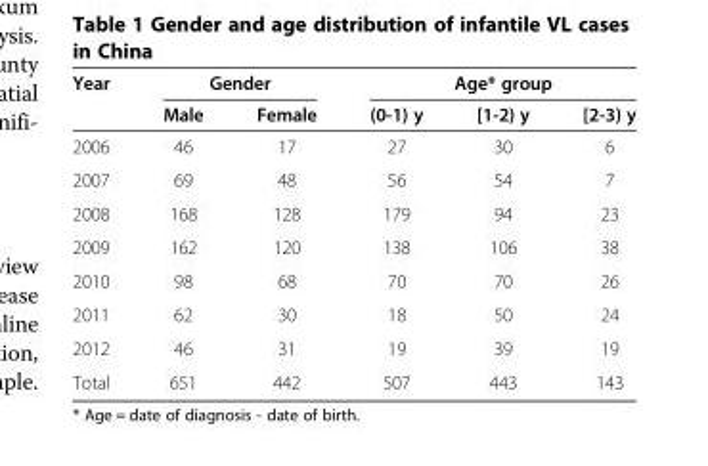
<table><thead><tr><td rowspan="2">Year</td><td colspan="2">Gender</td><td colspan="3">Age* group</td></tr><tr><td>Male</td><td>Female</td><td>(0-1) y</td><td>[1-2) y</td><td>[2-3) y</td></tr></thead><tbody><tr><td>2006</td><td>46</td><td>17</td><td>27</td><td>30</td><td>6</td></tr><tr><td>2007</td><td>69</td><td>48</td><td>56</td><td>54</td><td>7</td></tr><tr><td>2008</td><td>168</td><td>128</td><td>179</td><td>94</td><td>23</td></tr><tr><td>2009</td><td>162</td><td>120</td><td>138</td><td>106</td><td>38</td></tr><tr><td>2010</td><td>98</td><td>68</td><td>70</td><td>70</td><td>26</td></tr><tr><td>2011</td><td>62</td><td>30</td><td>18</td><td>50</td><td>24</td></tr><tr><td>2012</td><td>46</td><td>31</td><td>19</td><td>39</td><td>19</td></tr><tr><td>Total</td><td>651</td><td>442</td><td>507</td><td>443</td><td>143</td></tr></tbody></table>